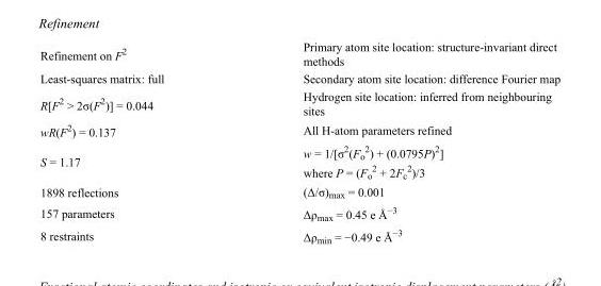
<table><tbody><tr><td>Refinement on F<sup>2</sup></td><td>Primary atom site location: structure-invariant direct methods</td></tr><tr><td>Least-squares matrix: full</td><td>Secondary atom site location: difference Fourier map</td></tr><tr><td>R[F<sup>2</sup> &gt; 2σ(F<sup>2</sup>)] = 0.044</td><td>Hydrogen site location: inferred from neighbouring sites</td></tr><tr><td>wR(F<sup>2</sup>) = 0.137</td><td>All H-atom parameters refined</td></tr><tr><td>S = 1.17</td><td>w = 1/[σ<sup>2</sup>(F<sub>o</sub> <sup>2</sup>) + (0.0795P)<sup>2</sup>] where P = (F<sub>o</sub> <sup>2</sup> + 2F<sub>c</sub> <sup>2</sup>)/3</td></tr><tr><td>1898 reflections</td><td>(Δ/σ)<sub>max</sub> = 0.001</td></tr><tr><td>157 parameters</td><td>Δρ<sub>max</sub> = 0.45 e Å<sup>−3</sup></td></tr><tr><td>8 restraints</td><td>Δρ<sub>min</sub> = −0.49 e Å<sup>−3</sup></td></tr></tbody></table>